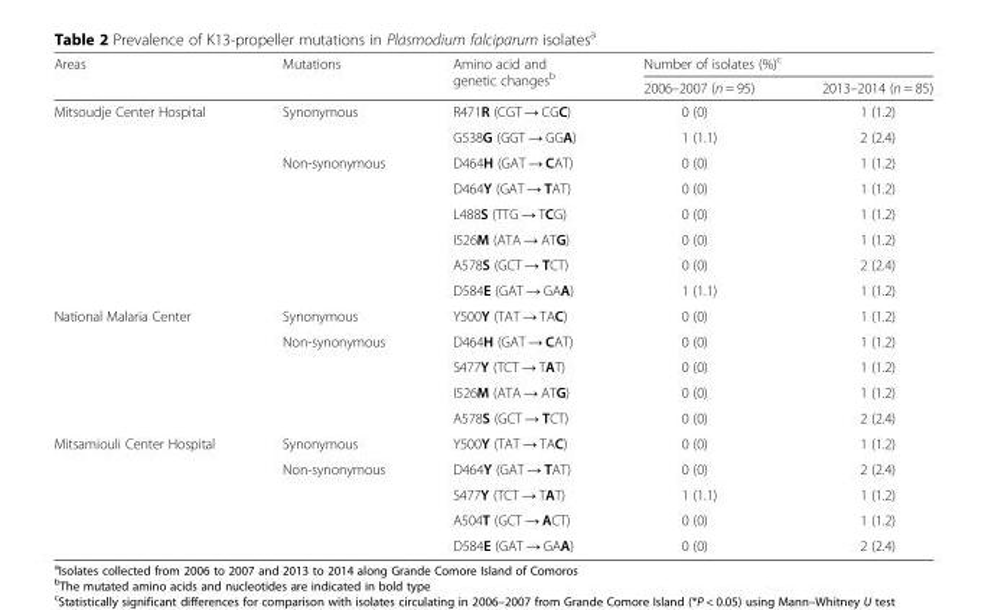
<table><thead><tr><td rowspan="2">Areas</td><td rowspan="2">Mutations</td><td rowspan="2">Amino acid and genetic changes<sup>b</sup></td><td colspan="2">Number of isolates (%)<sup>c</sup></td></tr><tr><td>2006–2007 (n = 95)</td><td>2013–2014 (n = 85)</td></tr></thead><tbody><tr><td rowspan="8">Mitsoudje Center Hospital</td><td rowspan="2">Synonymous</td><td>R471R (CGT → CGC)</td><td>0 (0)</td><td>1 (1.2)</td></tr><tr><td>G538G (GGT → GGA)</td><td>1 (1.1)</td><td>2 (2.4)</td></tr><tr><td rowspan="6">Non-synonymous</td><td>D464H (GAT → CAT)</td><td>0 (0)</td><td>1 (1.2)</td></tr><tr><td>D464Y (GAT → TAT)</td><td>0 (0)</td><td>1 (1.2)</td></tr><tr><td>L488S (TTG → TCG)</td><td>0 (0)</td><td>1 (1.2)</td></tr><tr><td>I526M (ATA → ATG)</td><td>0 (0)</td><td>1 (1.2)</td></tr><tr><td>A578S (GCT → TCT)</td><td>0 (0)</td><td>2 (2.4)</td></tr><tr><td>D584E (GAT → GAA)</td><td>1 (1.1)</td><td>1 (1.2)</td></tr><tr><td rowspan="5">National Malaria Center</td><td>Synonymous</td><td>Y500Y (TAT → TAC)</td><td>0 (0)</td><td>1 (1.2)</td></tr><tr><td rowspan="4">Non-synonymous</td><td>D464H (GAT → CAT)</td><td>0 (0)</td><td>1 (1.2)</td></tr><tr><td>S477Y (TCT → TAT)</td><td>0 (0)</td><td>1 (1.2)</td></tr><tr><td>I526M (ATA → ATG)</td><td>0 (0)</td><td>1 (1.2)</td></tr><tr><td>A578S (GCT → TCT)</td><td>0 (0)</td><td>2 (2.4)</td></tr><tr><td rowspan="5">Mitsamiouli Center Hospital</td><td>Synonymous</td><td>Y500Y (TAT → TAC)</td><td>0 (0)</td><td>1 (1.2)</td></tr><tr><td rowspan="4">Non-synonymous</td><td>D464Y (GAT → TAT)</td><td>0 (0)</td><td>2 (2.4)</td></tr><tr><td>S477Y (TCT → TAT)</td><td>1 (1.1)</td><td>1 (1.2)</td></tr><tr><td>A504T (GCT → ACT)</td><td>0 (0)</td><td>1 (1.2)</td></tr><tr><td>D584E (GAT → GAA)</td><td>0 (0)</td><td>2 (2.4)</td></tr></tbody></table>